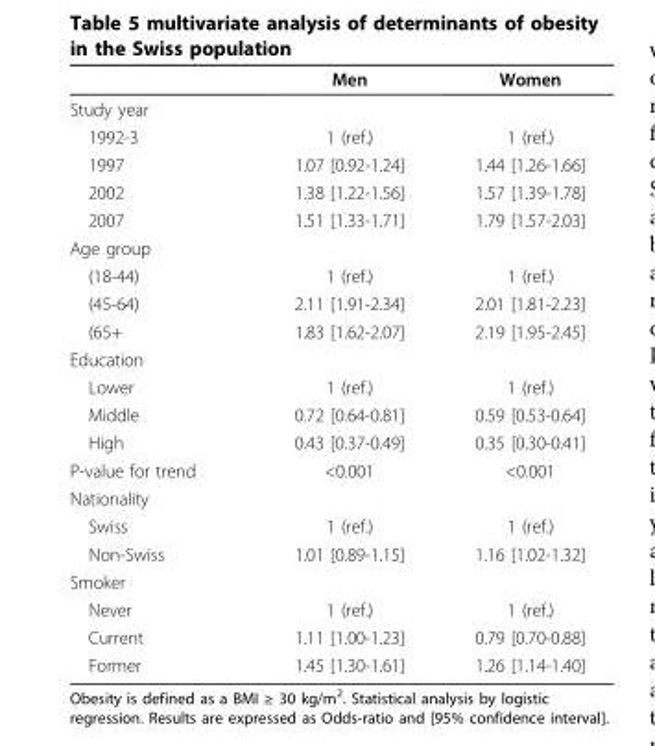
<table><thead><tr><td></td><td>Men</td><td>Women</td></tr></thead><tbody><tr><td colspan="3">Study year</td></tr><tr><td>1992-3</td><td>1 (ref.)</td><td>1 (ref.)</td></tr><tr><td>1997</td><td>1.07 [0.92-1.24]</td><td>1.44 [1.26-1.66]</td></tr><tr><td>2002</td><td>1.38 [1.22-1.56]</td><td>1.57 [1.39-1.78]</td></tr><tr><td>2007</td><td>1.51 [1.33-1.71]</td><td>1.79 [1.57-2.03]</td></tr><tr><td colspan="3">Age group</td></tr><tr><td>(18-44)</td><td>1 (ref.)</td><td>1 (ref.)</td></tr><tr><td>(45-64)</td><td>2.11 [1.91-2.34]</td><td>2.01 [1.81-2.23]</td></tr><tr><td>(65+</td><td>1.83 [1.62-2.07]</td><td>2.19 [1.95-2.45]</td></tr><tr><td colspan="3">Education</td></tr><tr><td>Lower</td><td>1 (ref.)</td><td>1 (ref.)</td></tr><tr><td>Middle</td><td>0.72 [0.64-0.81]</td><td>0.59 [0.53-0.64]</td></tr><tr><td>High</td><td>0.43 [0.37-0.49]</td><td>0.35 [0.30-0.41]</td></tr><tr><td>P-value for trend</td><td>&lt;0.001</td><td>&lt;0.001</td></tr><tr><td colspan="3">Nationality</td></tr><tr><td>Swiss</td><td>1 (ref.)</td><td>1 (ref.)</td></tr><tr><td>Non-Swiss</td><td>1.01 [0.89-1.15]</td><td>1.16 [1.02-1.32]</td></tr><tr><td colspan="3">Smoker</td></tr><tr><td>Never</td><td>1 (ref.)</td><td>1 (ref.)</td></tr><tr><td>Current</td><td>1.11 [1.00-1.23]</td><td>0.79 [0.70-0.88]</td></tr><tr><td>Former</td><td>1.45 [1.30-1.61]</td><td>1.26 [1.14-1.40]</td></tr></tbody></table>